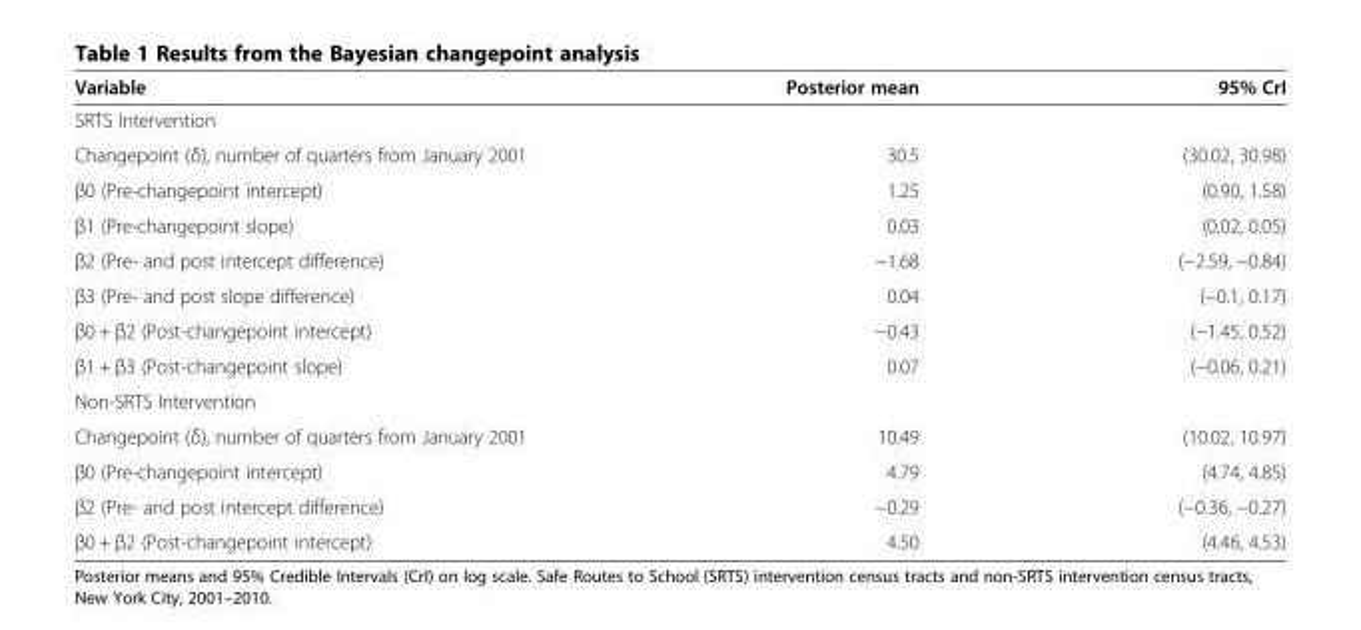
<table><thead><tr><td>Variable</td><td>Posterior mean</td><td>95% CrI</td></tr></thead><tbody><tr><td colspan="3">SRTS Intervention</td></tr><tr><td>Changepoint (δ), number of quarters from January 2001</td><td>30.5</td><td>(30.02, 30.98)</td></tr><tr><td>β0 (Pre-changepoint intercept)</td><td>1.25</td><td>(0.90, 1.58)</td></tr><tr><td>β1 (Pre-changepoint slope)</td><td>0.03</td><td>(0.02, 0.05)</td></tr><tr><td>β2 (Pre- and post intercept difference)</td><td>−1.68</td><td>(−2.59, −0.84)</td></tr><tr><td>β3 (Pre- and post slope difference)</td><td>0.04</td><td>(−0.1, 0.17)</td></tr><tr><td>β0 + β2 (Post-changepoint intercept)</td><td>−0.43</td><td>(−1.45, 0.52)</td></tr><tr><td>β1 + β3 (Post-changepoint slope)</td><td>0.07</td><td>(−0.06, 0.21)</td></tr><tr><td colspan="3">Non-SRTS Intervention</td></tr><tr><td>Changepoint (δ), number of quarters from January 2001</td><td>10.49</td><td>(10.02, 10.97)</td></tr><tr><td>β0 (Pre-changepoint intercept)</td><td>4.79</td><td>(4.74, 4.85)</td></tr><tr><td>β2 (Pre- and post intercept difference)</td><td>−0.29</td><td>(−0.36, −0.27)</td></tr><tr><td>β0 + β2 (Post-changepoint intercept)</td><td>4.50</td><td>(4.46, 4.53)</td></tr></tbody></table>